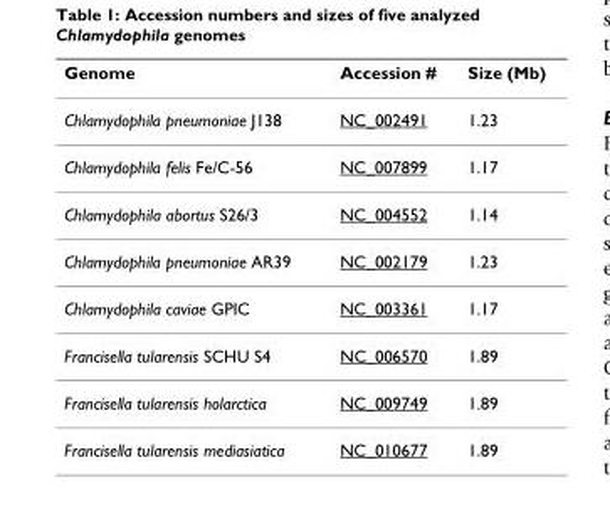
<table><thead><tr><td>Genome</td><td>Accession #</td><td>Size (Mb)</td></tr></thead><tbody><tr><td>Chlamydophila pneumoniae J138</td><td>NC_002491</td><td>1.23</td></tr><tr><td>Chlamydophila felis Fe/C-56</td><td>NC_007899</td><td>1.17</td></tr><tr><td>Chlamydophila abortus S26/3</td><td>NC_004552</td><td>1.14</td></tr><tr><td>Chlamydophila pneumoniae AR39</td><td>NC_002179</td><td>1.23</td></tr><tr><td>Chlamydophila caviae GPIC</td><td>NC_003361</td><td>1.17</td></tr><tr><td>Francisella tularensis SCHU S4</td><td>NC_006570</td><td>1.89</td></tr><tr><td>Francisella tularensis holarctica</td><td>NC_009749</td><td>1.89</td></tr><tr><td>Francisella tularensis mediasiatica</td><td>NC_010677</td><td>1.89</td></tr></tbody></table>